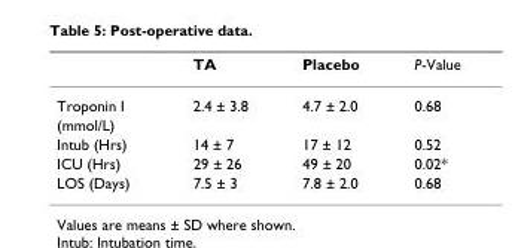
<table><thead><tr><td></td><td>TA</td><td>Placebo</td><td>P-Value</td></tr></thead><tbody><tr><td>Troponin I</td><td>2.4 ± 3.8</td><td>4.7 ± 2.0</td><td>0.68</td></tr><tr><td colspan="4">(mmol/L)</td></tr><tr><td>Intub (Hrs)</td><td>14 ± 7</td><td>17 ± 12</td><td>0.52</td></tr><tr><td>ICU (Hrs)</td><td>29 ± 26</td><td>49 ± 20</td><td>0.02*</td></tr><tr><td>LOS (Days)</td><td>7.5 ± 3</td><td>7.8 ± 2.0</td><td>0.68</td></tr></tbody></table>